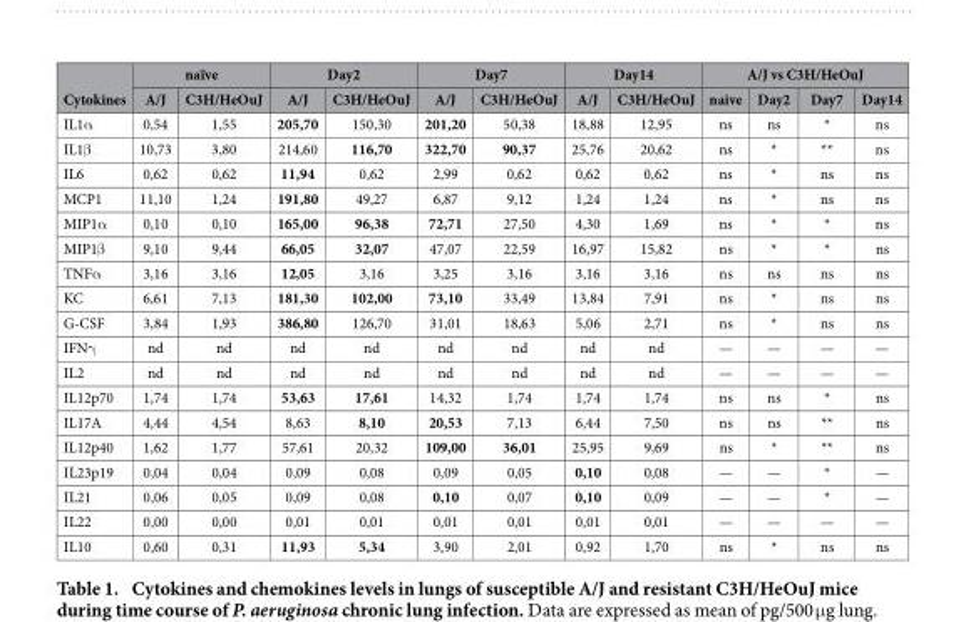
<table><thead><tr><td rowspan="2">Cytokines</td><td colspan="2">naïve</td><td colspan="2">Day2</td><td colspan="2">Day7</td><td colspan="2">Day14</td><td colspan="4">A/J vs C3H/HeOuJ</td></tr><tr><td>A/J</td><td>C3H/HeOuJ</td><td>A/J</td><td>C3H/HeOuJ</td><td>A/J</td><td>C3H/HeOuJ</td><td>A/J</td><td>C3H/HeOuJ</td><td>naive</td><td>Day2</td><td>Day7</td><td>Day14</td></tr></thead><tbody><tr><td>IL1α</td><td>0,54</td><td>1,55</td><td>205,70</td><td>150,30</td><td>201,20</td><td>50,38</td><td>18,88</td><td>12,95</td><td>ns</td><td>ns</td><td>*</td><td>ns</td></tr><tr><td>IL1β</td><td>10,73</td><td>3,80</td><td>214,60</td><td>116,70</td><td>322,70</td><td>90,37</td><td>25,76</td><td>20,62</td><td>ns</td><td>*</td><td>**</td><td>ns</td></tr><tr><td>IL6</td><td>0,62</td><td>0,62</td><td>11,94</td><td>0,62</td><td>2,99</td><td>0,62</td><td>0,62</td><td>0,62</td><td>ns</td><td>*</td><td>ns</td><td>ns</td></tr><tr><td>MCP1</td><td>11,10</td><td>1,24</td><td>191,80</td><td>49,27</td><td>6,87</td><td>9,12</td><td>1,24</td><td>1,24</td><td>ns</td><td>*</td><td>ns</td><td>ns</td></tr><tr><td>MIP1α</td><td>0,10</td><td>0,10</td><td>165,00</td><td>96,38</td><td>72,71</td><td>27,50</td><td>4,30</td><td>1,69</td><td>ns</td><td>*</td><td>*</td><td>ns</td></tr><tr><td>MIP1β</td><td>9,10</td><td>9,44</td><td>66,05</td><td>32,07</td><td>47,07</td><td>22,59</td><td>16,97</td><td>15,82</td><td>ns</td><td>*</td><td>*</td><td>ns</td></tr><tr><td>TNFα</td><td>3,16</td><td>3,16</td><td>12,05</td><td>3,16</td><td>3,25</td><td>3,16</td><td>3,16</td><td>3,16</td><td>ns</td><td>ns</td><td>ns</td><td>ns</td></tr><tr><td>KC</td><td>6,61</td><td>7,13</td><td>181,30</td><td>102,00</td><td>73,10</td><td>33,49</td><td>13,84</td><td>7,91</td><td>ns</td><td>*</td><td>ns</td><td>ns</td></tr><tr><td>G-CSF</td><td>3,84</td><td>1,93</td><td>386,80</td><td>126,70</td><td>31,01</td><td>18,63</td><td>5,06</td><td>2,71</td><td>ns</td><td>*</td><td>ns</td><td>ns</td></tr><tr><td>IFNγ</td><td>nd</td><td>nd</td><td>nd</td><td>nd</td><td>nd</td><td>nd</td><td>nd</td><td>nd</td><td>—</td><td>—</td><td>—</td><td>—</td></tr><tr><td>IL2</td><td>nd</td><td>nd</td><td>nd</td><td>nd</td><td>nd</td><td>nd</td><td>nd</td><td>nd</td><td>—</td><td>—</td><td>—</td><td>—</td></tr><tr><td>IL12p70</td><td>1,74</td><td>1,74</td><td>53,63</td><td>17,61</td><td>14,32</td><td>1,74</td><td>1,74</td><td>1,74</td><td>ns</td><td>ns</td><td>*</td><td>ns</td></tr><tr><td>IL17A</td><td>4,44</td><td>4,54</td><td>8,63</td><td>8,10</td><td>20,53</td><td>7,13</td><td>6,44</td><td>7,50</td><td>ns</td><td>ns</td><td>**</td><td>ns</td></tr><tr><td>IL12p40</td><td>1,62</td><td>1,77</td><td>57,61</td><td>20,32</td><td>109,00</td><td>36,01</td><td>25,95</td><td>9,69</td><td>ns</td><td>*</td><td>**</td><td>ns</td></tr><tr><td>IL23p19</td><td>0,04</td><td>0,04</td><td>0,09</td><td>0,08</td><td>0,09</td><td>0,05</td><td>0,10</td><td>0,08</td><td>—</td><td>—</td><td>*</td><td>—</td></tr><tr><td>IL21</td><td>0,06</td><td>0,05</td><td>0,09</td><td>0,08</td><td>0,10</td><td>0,07</td><td>0,10</td><td>0,09</td><td>—</td><td>—</td><td>*</td><td>—</td></tr><tr><td>IL22</td><td>0,00</td><td>0,00</td><td>0,01</td><td>0,01</td><td>0,01</td><td>0,01</td><td>0,01</td><td>0,01</td><td>—</td><td>—</td><td>—</td><td>—</td></tr><tr><td>IL10</td><td>0,60</td><td>0,31</td><td>11,93</td><td>5,34</td><td>3,90</td><td>2,01</td><td>0,92</td><td>1,70</td><td>ns</td><td>*</td><td>ns</td><td>ns</td></tr></tbody></table>